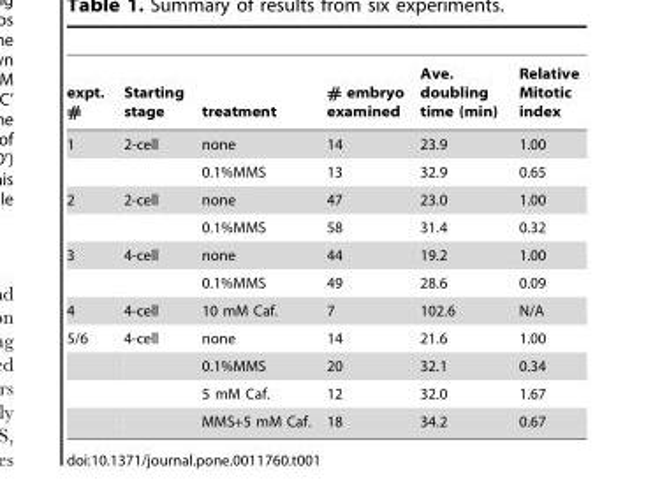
<table><thead><tr><td>expt. #</td><td>Starting stage</td><td>treatment</td><td># embryo examined</td><td>Ave. doubling time (min)</td><td>Relative Mitotic index</td></tr></thead><tbody><tr><td rowspan="2">1</td><td>2-cell</td><td>none</td><td>14</td><td>23.9</td><td>1.00</td></tr><tr><td></td><td>0.1%MMS</td><td>13</td><td>32.9</td><td>0.65</td></tr><tr><td rowspan="2">2</td><td>2-cell</td><td>none</td><td>47</td><td>23.0</td><td>1.00</td></tr><tr><td></td><td>0.1%MMS</td><td>58</td><td>31.4</td><td>0.32</td></tr><tr><td rowspan="2">3</td><td>4-cell</td><td>none</td><td>44</td><td>19.2</td><td>1.00</td></tr><tr><td></td><td>0.1%MMS</td><td>49</td><td>28.6</td><td>0.09</td></tr><tr><td>4</td><td>4-cell</td><td>10 mM Caf.</td><td>7</td><td>102.6</td><td>N/A</td></tr><tr><td rowspan="4">5/6</td><td>4-cell</td><td>none</td><td>14</td><td>21.6</td><td>1.00</td></tr><tr><td></td><td>0.1%MMS</td><td>20</td><td>32.1</td><td>0.34</td></tr><tr><td></td><td>5 mM Caf.</td><td>12</td><td>32.0</td><td>1.67</td></tr><tr><td></td><td>MMS+5 mM Caf.</td><td>18</td><td>34.2</td><td>0.67</td></tr></tbody></table>